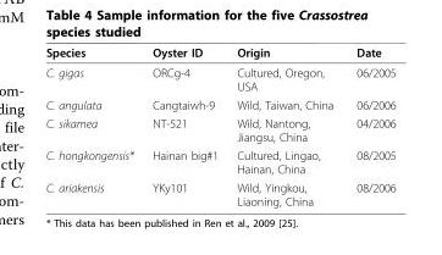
<table><thead><tr><td>Species</td><td>Oyster ID</td><td>Origin</td><td>Date</td></tr></thead><tbody><tr><td>C. gigas</td><td>ORCg-4</td><td>Cultured, Oregon, USA</td><td>06/2005</td></tr><tr><td>C. angulata</td><td>Cangtaiwh-9</td><td>Wild, Taiwan, China</td><td>06/2006</td></tr><tr><td>C. sikamea</td><td>NT-521</td><td>Wild, Nantong, Jiangsu, China</td><td>04/2006</td></tr><tr><td>C. hongkongensis*</td><td>Hainan big#1</td><td>Cultured, Lingao, Hainan, China</td><td>08/2005</td></tr><tr><td>C. ariakensis</td><td>YKy101</td><td>Wild, Yingkou, Liaoning, China</td><td>08/2006</td></tr></tbody></table>